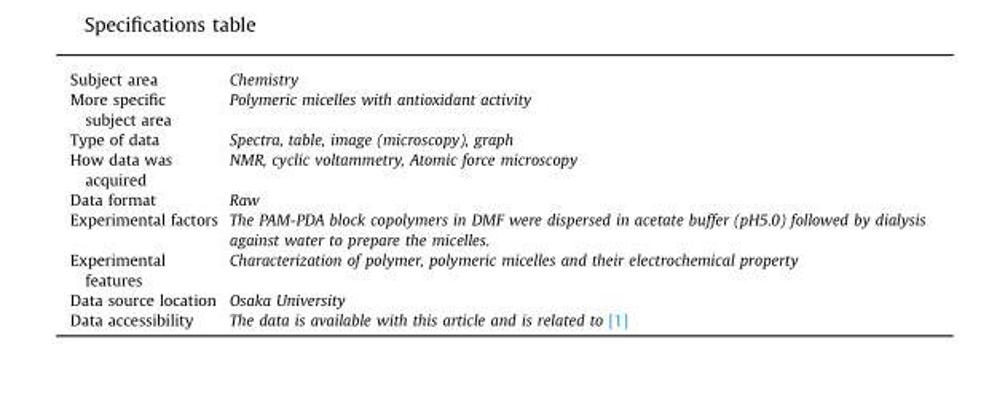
<table><tbody><tr><td>Subject area</td><td>Chemistry</td></tr><tr><td>More specific subject area</td><td>Polymeric micelles with antioxidant activity</td></tr><tr><td>Type of data</td><td>Spectra, table, image (microscopy), graph</td></tr><tr><td>How data was acquired</td><td>NMR, cyclic voltammetry, Atomic force microscopy</td></tr><tr><td>Data format</td><td>Raw</td></tr><tr><td>Experimental factors</td><td>The PAM-PDA block copolymers in DMF were dispersed in acetate buffer (pH5.0) followed by dialysis against water to prepare the micelles.</td></tr><tr><td>Experimental features</td><td>Characterization of polymer, polymeric micelles and their electrochemical property</td></tr><tr><td>Data source location</td><td>Osaka University</td></tr><tr><td>Data accessibility</td><td>The data is available with this article and is related to [1]</td></tr></tbody></table>